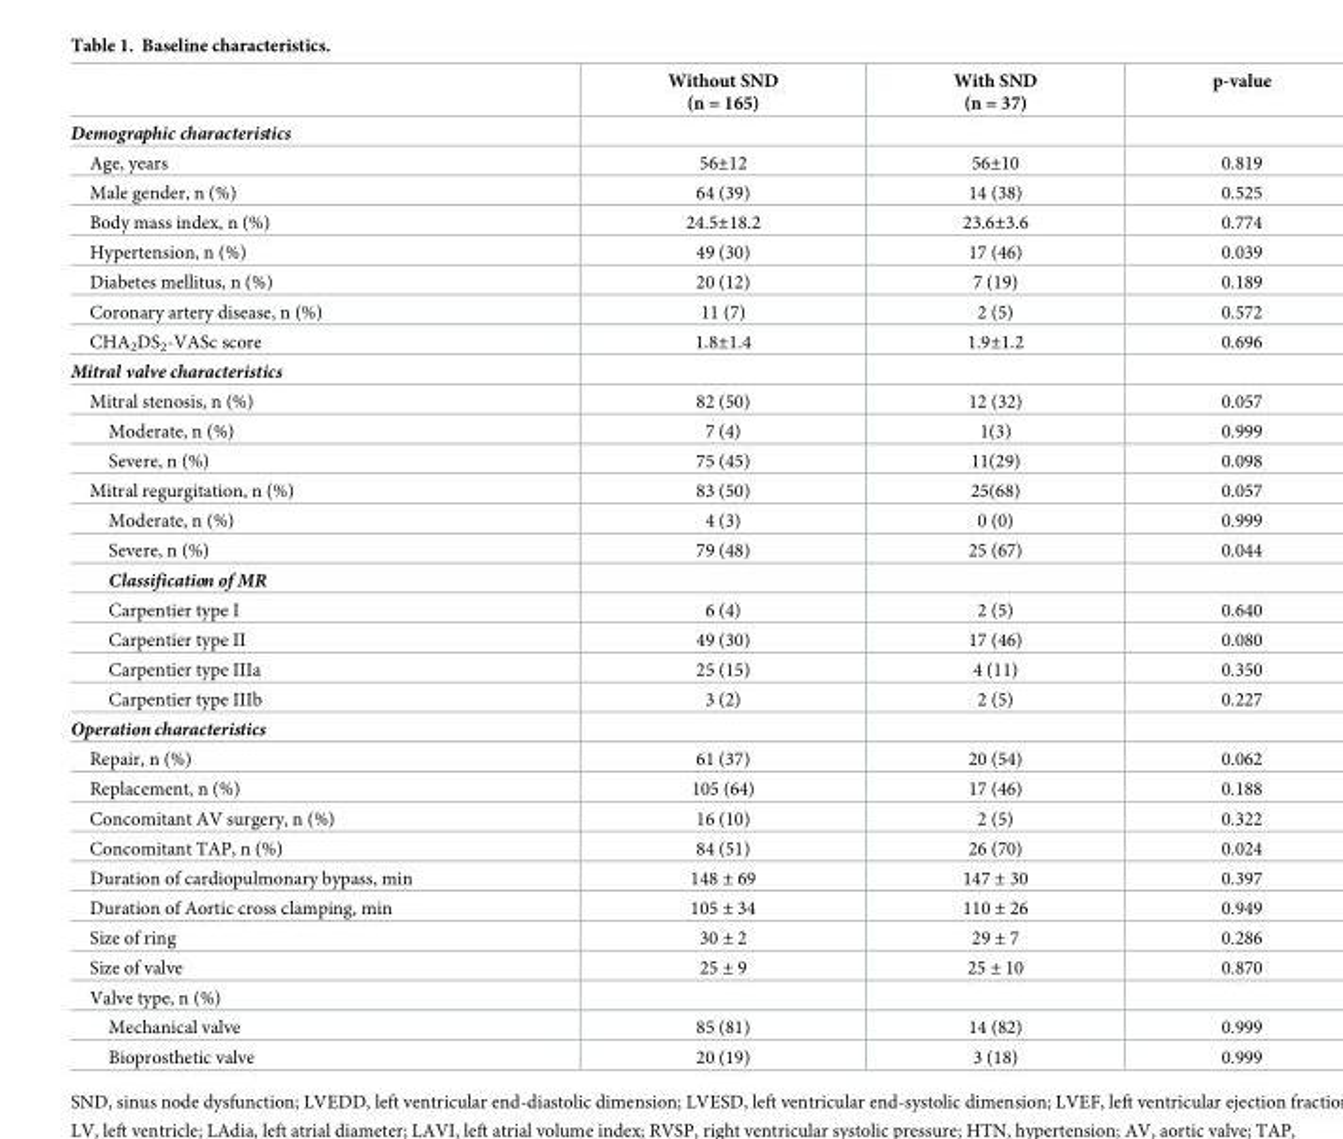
<table><thead><tr><td></td><td>Without SND (n = 165)</td><td>With SND (n = 37)</td><td>p-value</td></tr></thead><tbody><tr><td colspan="4">Demographic characteristics</td></tr><tr><td>Age, years</td><td>56±12</td><td>56±10</td><td>0.819</td></tr><tr><td>Male gender, n (%)</td><td>64 (39)</td><td>14 (38)</td><td>0.525</td></tr><tr><td>Body mass index, n (%)</td><td>24.5±18.2</td><td>23.6±3.6</td><td>0.774</td></tr><tr><td>Hypertension, n (%)</td><td>49 (30)</td><td>17 (46)</td><td>0.039</td></tr><tr><td>Diabetes mellitus, n (%)</td><td>20 (12)</td><td>7 (19)</td><td>0.189</td></tr><tr><td>Coronary artery disease, n (%)</td><td>11 (7)</td><td>2 (5)</td><td>0.572</td></tr><tr><td>CHA<sub>2</sub>DS<sub>2</sub>-VASc score</td><td>1.8±1.4</td><td>1.9±1.2</td><td>0.696</td></tr><tr><td colspan="4">Mitral valve characteristics</td></tr><tr><td>Mitral stenosis, n (%)</td><td>82 (50)</td><td>12 (32)</td><td>0.057</td></tr><tr><td>Moderate, n (%)</td><td>7 (4)</td><td>1(3)</td><td>0.999</td></tr><tr><td>Severe, n (%)</td><td>75 (45)</td><td>11(29)</td><td>0.098</td></tr><tr><td>Mitral regurgitation, n (%)</td><td>83 (50)</td><td>25(68)</td><td>0.057</td></tr><tr><td>Moderate, n (%)</td><td>4 (3)</td><td>0 (0)</td><td>0.999</td></tr><tr><td>Severe, n (%)</td><td>79 (48)</td><td>25 (67)</td><td>0.044</td></tr><tr><td colspan="4">Classification of MR</td></tr><tr><td>Carpentier type I</td><td>6 (4)</td><td>2 (5)</td><td>0.640</td></tr><tr><td>Carpentier type II</td><td>49 (30)</td><td>17 (46)</td><td>0.080</td></tr><tr><td>Carpentier type IIIa</td><td>25 (15)</td><td>4 (11)</td><td>0.350</td></tr><tr><td>Carpentier type IIIb</td><td>3 (2)</td><td>2 (5)</td><td>0.227</td></tr><tr><td colspan="4">Operation characteristics</td></tr><tr><td>Repair, n (%)</td><td>61 (37)</td><td>20 (54)</td><td>0.062</td></tr><tr><td>Replacement, n (%)</td><td>105 (64)</td><td>17 (46)</td><td>0.188</td></tr><tr><td>Concomitant AV surgery, n (%)</td><td>16 (10)</td><td>2 (5)</td><td>0.322</td></tr><tr><td>Concomitant TAP, n (%)</td><td>84 (51)</td><td>26 (70)</td><td>0.024</td></tr><tr><td>Duration of cardiopulmonary bypass, min</td><td>148 ± 69</td><td>147 ± 30</td><td>0.397</td></tr><tr><td>Duration of Aortic cross clamping, min</td><td>105 ± 34</td><td>110 ± 26</td><td>0.949</td></tr><tr><td>Size of ring</td><td>30 ± 2</td><td>29 ± 7</td><td>0.286</td></tr><tr><td>Size of valve</td><td>25 ± 9</td><td>25 ± 10</td><td>0.870</td></tr><tr><td colspan="4">Valve type, n (%)</td></tr><tr><td>Mechanical valve</td><td>85 (81)</td><td>14 (82)</td><td>0.999</td></tr><tr><td>Bioprosthetic valve</td><td>20 (19)</td><td>3 (18)</td><td>0.999</td></tr></tbody></table>